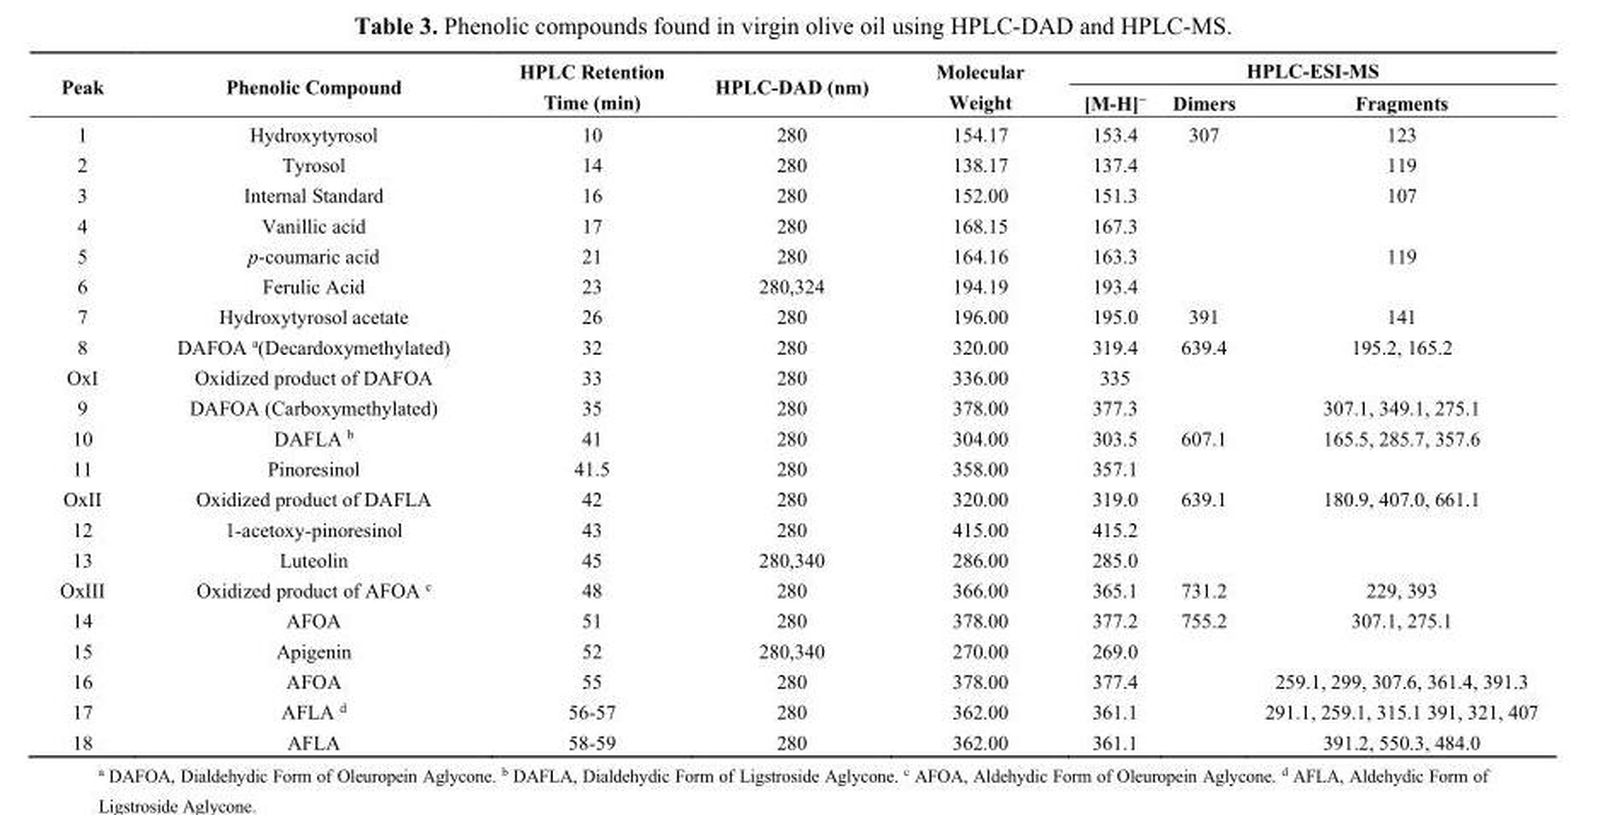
<table><thead><tr><td rowspan="2">Peak</td><td rowspan="2">Phenolic Compound</td><td rowspan="2">HPLC Retention Time (min)</td><td rowspan="2">HPLC-DAD (nm)</td><td rowspan="2">Molecular Weight</td><td colspan="3">HPLC-ESI-MS</td></tr><tr><td>[M-H]<sup>−</sup></td><td>Dimers</td><td>Fragments</td></tr></thead><tbody><tr><td>1</td><td>Hydroxytyrosol</td><td>10</td><td>280</td><td>154.17</td><td>153.4</td><td>307</td><td>123</td></tr><tr><td>2</td><td>Tyrosol</td><td>14</td><td>280</td><td>138.17</td><td>137.4</td><td></td><td>119</td></tr><tr><td>3</td><td>Internal Standard</td><td>16</td><td>280</td><td>152.00</td><td>151.3</td><td></td><td>107</td></tr><tr><td>4</td><td>Vanillic acid</td><td>17</td><td>280</td><td>168.15</td><td>167.3</td><td></td><td></td></tr><tr><td>5</td><td>p-coumaric acid</td><td>21</td><td>280</td><td>164.16</td><td>163.3</td><td></td><td>119</td></tr><tr><td>6</td><td>Ferulic Acid</td><td>23</td><td>280,324</td><td>194.19</td><td>193.4</td><td></td><td></td></tr><tr><td>7</td><td>Hydroxytyrosol acetate</td><td>26</td><td>280</td><td>196.00</td><td>195.0</td><td>391</td><td>141</td></tr><tr><td>8</td><td>DAFOA <sup>a</sup>(Decardoxymethylated)</td><td>32</td><td>280</td><td>320.00</td><td>319.4</td><td>639.4</td><td>195.2, 165.2</td></tr><tr><td>OxI</td><td>Oxidized product of DAFOA</td><td>33</td><td>280</td><td>336.00</td><td>335</td><td></td><td></td></tr><tr><td>9</td><td>DAFOA (Carboxymethylated)</td><td>35</td><td>280</td><td>378.00</td><td>377.3</td><td></td><td>307.1, 349.1, 275.1</td></tr><tr><td>10</td><td>DAFLA <sup>b</sup></td><td>41</td><td>280</td><td>304.00</td><td>303.5</td><td>607.1</td><td>165.5, 285.7, 357.6</td></tr><tr><td>11</td><td>Pinoresinol</td><td>41.5</td><td>280</td><td>358.00</td><td>357.1</td><td></td><td></td></tr><tr><td>OxII</td><td>Oxidized product of DAFLA</td><td>42</td><td>280</td><td>320.00</td><td>319.0</td><td>639.1</td><td>180.9, 407.0, 661.1</td></tr><tr><td>12</td><td>1-acetoxy-pinoresinol</td><td>43</td><td>280</td><td>415.00</td><td>415.2</td><td></td><td></td></tr><tr><td>13</td><td>Luteolin</td><td>45</td><td>280,340</td><td>286.00</td><td>285.0</td><td></td><td></td></tr><tr><td>OxIII</td><td>Oxidized product of AFOA <sup>c</sup></td><td>48</td><td>280</td><td>366.00</td><td>365.1</td><td>731.2</td><td>229, 393</td></tr><tr><td>14</td><td>AFOA</td><td>51</td><td>280</td><td>378.00</td><td>377.2</td><td>755.2</td><td>307.1, 275.1</td></tr><tr><td>15</td><td>Apigenin</td><td>52</td><td>280,340</td><td>270.00</td><td>269.0</td><td></td><td></td></tr><tr><td>16</td><td>AFOA</td><td>55</td><td>280</td><td>378.00</td><td>377.4</td><td></td><td>259.1, 299, 307.6, 361.4, 391.3</td></tr><tr><td>17</td><td>AFLA <sup>d</sup></td><td>56-57</td><td>280</td><td>362.00</td><td>361.1</td><td></td><td>291.1, 259.1, 315.1 391, 321, 407</td></tr><tr><td>18</td><td>AFLA</td><td>58-59</td><td>280</td><td>362.00</td><td>361.1</td><td></td><td>391.2, 550.3, 484.0</td></tr></tbody></table>